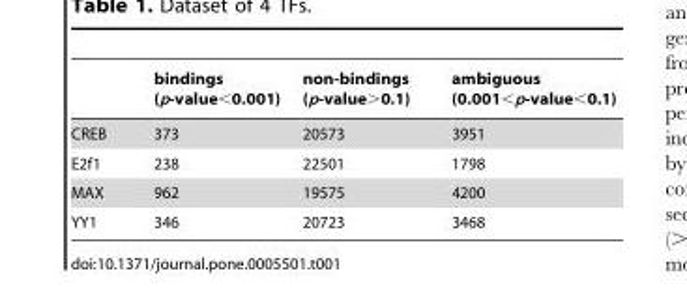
<table><thead><tr><td></td><td>bindings (p-value&lt;0.001)</td><td>non-bindings (p-value&gt;0.1)</td><td>ambiguous (0.001&lt;p-value&lt;0.1)</td></tr></thead><tbody><tr><td>CREB</td><td>373</td><td>20573</td><td>3951</td></tr><tr><td>E2f1</td><td>238</td><td>22501</td><td>1798</td></tr><tr><td>MAX</td><td>962</td><td>19575</td><td>4200</td></tr><tr><td>YY1</td><td>346</td><td>20723</td><td>3468</td></tr></tbody></table>